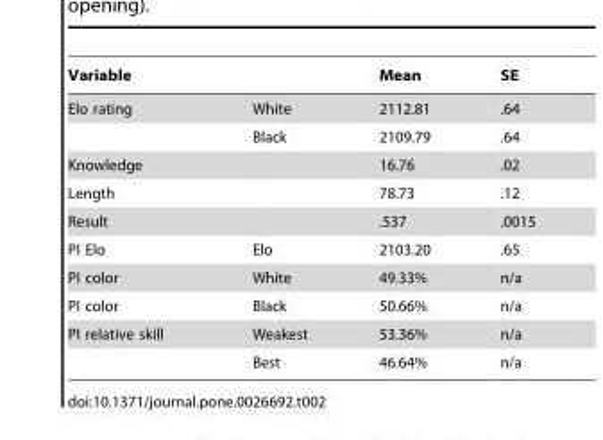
<table><thead><tr><td colspan="2">Variable</td><td rowspan="2">Mean 2112.81</td><td rowspan="2">SE .64</td></tr><tr><td>Elo rating</td><td>White</td></tr></thead><tbody><tr><td></td><td>Black</td><td>2109.79</td><td>.64</td></tr><tr><td>Knowledge</td><td></td><td>16.76</td><td>.02</td></tr><tr><td>Length</td><td></td><td>78.73</td><td>.12</td></tr><tr><td>Result</td><td></td><td>.537</td><td>.0015</td></tr><tr><td>PI Elo</td><td>Elo</td><td>2103.20</td><td>.65</td></tr><tr><td>PI color</td><td>White</td><td>49.33%</td><td>n/a</td></tr><tr><td>PI color</td><td>Black</td><td>50.66%</td><td>n/a</td></tr><tr><td rowspan="2">PI relative skill</td><td>Weakest</td><td>53.36%</td><td>n/a</td></tr><tr><td>Best</td><td>46.64%</td><td>n/a</td></tr></tbody></table>